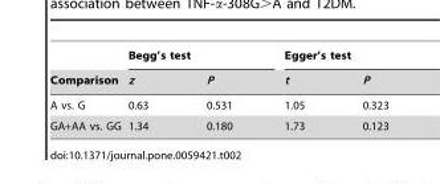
<table><thead><tr><td rowspan="2">Comparison</td><td colspan="2">Begg’s test</td><td colspan="2">Egger’s test</td></tr><tr><td>z</td><td>P</td><td>t</td><td>P</td></tr></thead><tbody><tr><td>A vs. G</td><td>0.63</td><td>0.531</td><td>1.05</td><td>0.323</td></tr><tr><td>GA+AA vs. GG</td><td>1.34</td><td>0.180</td><td>1.73</td><td>0.123</td></tr></tbody></table>